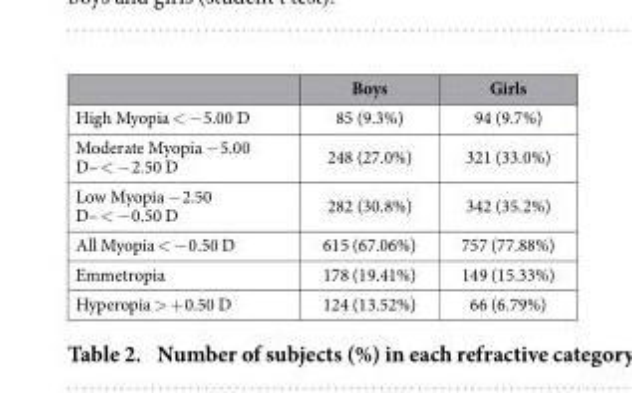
<table><thead><tr><td></td><td>Boys</td><td>Girls</td></tr></thead><tbody><tr><td>High Myopia &lt; − 5.00 D</td><td>85 (9.3%)</td><td>94 (9.7%)</td></tr><tr><td>Moderate Myopia − 5.00 D– &lt; − 2.50 D</td><td>248 (27.0%)</td><td>321 (33.0%)</td></tr><tr><td>Low Myopia − 2.50 D– &lt; − 0.50 D</td><td>282 (30.8%)</td><td>342 (35.2%)</td></tr><tr><td>All Myopia &lt; − 0.50 D</td><td>615 (67.06%)</td><td>757 (77.88%)</td></tr><tr><td>Emmetropia</td><td>178 (19.41%)</td><td>149 (15.33%)</td></tr><tr><td>Hyperopia &gt; + 0.50 D</td><td>124 (13.52%)</td><td>66 (6.79%)</td></tr></tbody></table>